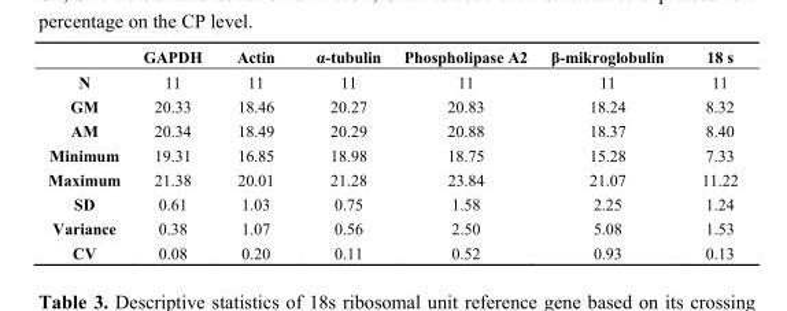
<table><thead><tr><td></td><td>GAPDH</td><td>Actin</td><td>α-tubulin</td><td>Phospholipase A2</td><td>β-mikroglobulin</td><td>18 s</td></tr></thead><tbody><tr><td>N</td><td>11</td><td>11</td><td>11</td><td>11</td><td>11</td><td>11</td></tr><tr><td>GM</td><td>20.33</td><td>18.46</td><td>20.27</td><td>20.83</td><td>18.24</td><td>8.32</td></tr><tr><td>AM</td><td>20.34</td><td>18.49</td><td>20.29</td><td>20.88</td><td>18.37</td><td>8.40</td></tr><tr><td>Minimum</td><td>19.31</td><td>16.85</td><td>18.98</td><td>18.75</td><td>15.28</td><td>7.33</td></tr><tr><td>Maximum</td><td>21.38</td><td>20.01</td><td>21.28</td><td>23.84</td><td>21.07</td><td>11.22</td></tr><tr><td>SD</td><td>0.61</td><td>1.03</td><td>0.75</td><td>1.58</td><td>2.25</td><td>1.24</td></tr><tr><td>Variance</td><td>0.38</td><td>1.07</td><td>0.56</td><td>2.50</td><td>5.08</td><td>1.53</td></tr><tr><td>CV</td><td>0.08</td><td>0.20</td><td>0.11</td><td>0.52</td><td>0.93</td><td>0.13</td></tr></tbody></table>